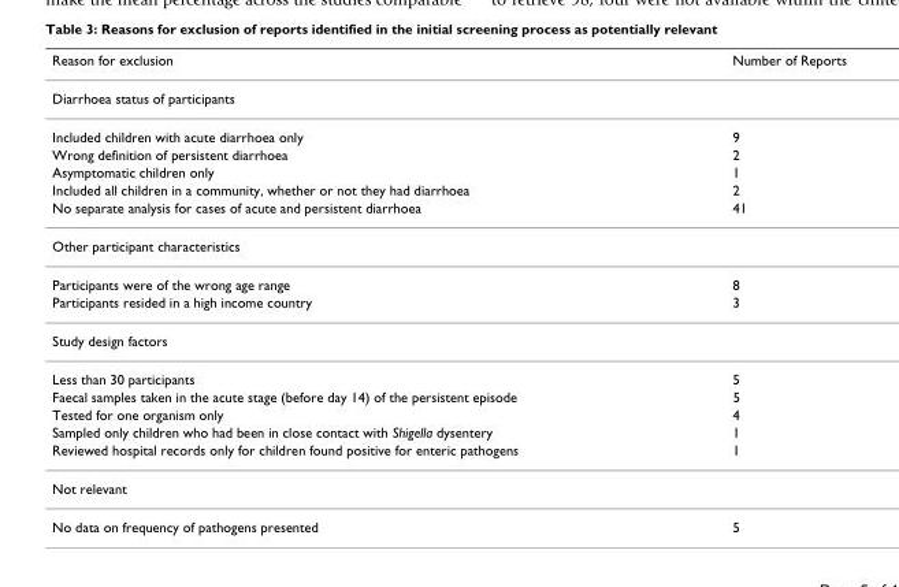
<table><thead><tr><td>Reason for exclusion</td><td>Number of Reports</td></tr></thead><tbody><tr><td colspan="2">Diarrhoea status of participants</td></tr><tr><td>Included children with acute diarrhoea only</td><td>9</td></tr><tr><td>Wrong definition of persistent diarrhoea</td><td>2</td></tr><tr><td>Asymptomatic children only</td><td>1</td></tr><tr><td>Included all children in a community, whether or not they had diarrhoea</td><td>2</td></tr><tr><td>No separate analysis for cases of acute and persistent diarrhoea</td><td>41</td></tr><tr><td colspan="2">Other participant characteristics</td></tr><tr><td>Participants were of the wrong age range</td><td>8</td></tr><tr><td>Participants resided in a high income country</td><td>3</td></tr><tr><td colspan="2">Study design factors</td></tr><tr><td>Less than 30 participants</td><td>5</td></tr><tr><td>Faecal samples taken in the acute stage (before day 14) of the persistent episode</td><td>5</td></tr><tr><td>Tested for one organism only</td><td>4</td></tr><tr><td>Sampled only children who had been in close contact with Shigella dysentery</td><td>1</td></tr><tr><td>Reviewed hospital records only for children found positive for enteric pathogens</td><td>1</td></tr><tr><td colspan="2">Not relevant</td></tr><tr><td>No data on frequency of pathogens presented</td><td>5</td></tr></tbody></table>